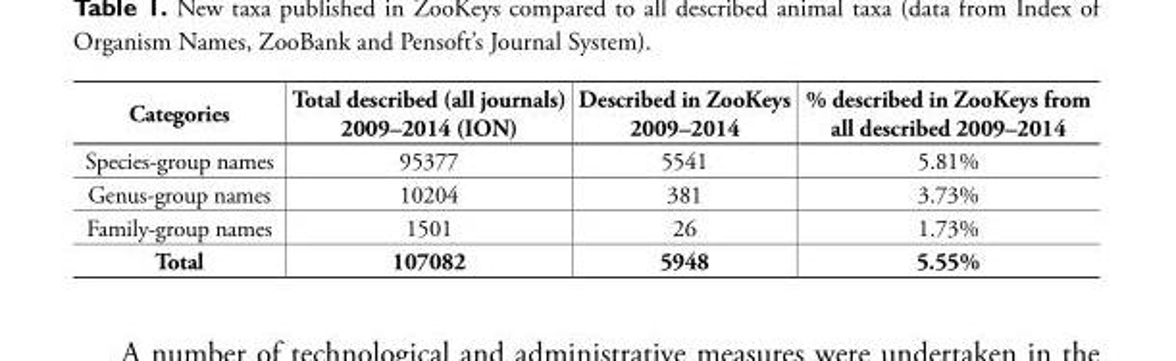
<table><thead><tr><td>Categories</td><td>Total described (all journals) 2009–2014 (ION)</td><td>Described in ZooKeys 2009–2014</td><td>% described in ZooKeys from all described 2009–2014</td></tr></thead><tbody><tr><td>Species-group names</td><td>95377</td><td>5541</td><td>5.81%</td></tr><tr><td>Genus-group names</td><td>10204</td><td>381</td><td>3.73%</td></tr><tr><td>Family-group names</td><td>1501</td><td>26</td><td>1.73%</td></tr><tr><td>Total</td><td>107082</td><td>5948</td><td>5.55%</td></tr></tbody></table>